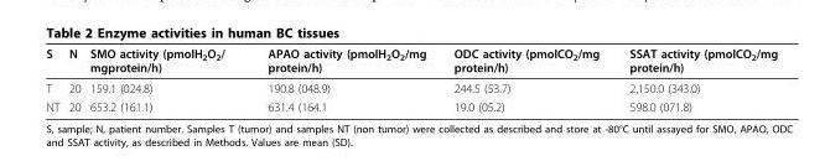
<table><thead><tr><td>S</td><td>N</td><td>SMO activity (pmolH<sub>2</sub>O<sub>2</sub>/ mgprotein/h)</td><td>APAO activity (pmolH<sub>2</sub>O<sub>2</sub>/mg protein/h)</td><td>ODC activity (pmolCO<sub>2</sub>/mg protein/h)</td><td>SSAT activity (pmolCO<sub>2</sub>/mg protein/h)</td></tr></thead><tbody><tr><td>T</td><td>20</td><td>159.1 (024.8)</td><td>190.8 (048.9)</td><td>244.5 (53.7)</td><td>2,150.0 (343.0)</td></tr><tr><td>NT</td><td>20</td><td>653.2 (161.1)</td><td>631.4 (164.1</td><td>19.0 (05.2)</td><td>598.0 (071.8)</td></tr></tbody></table>